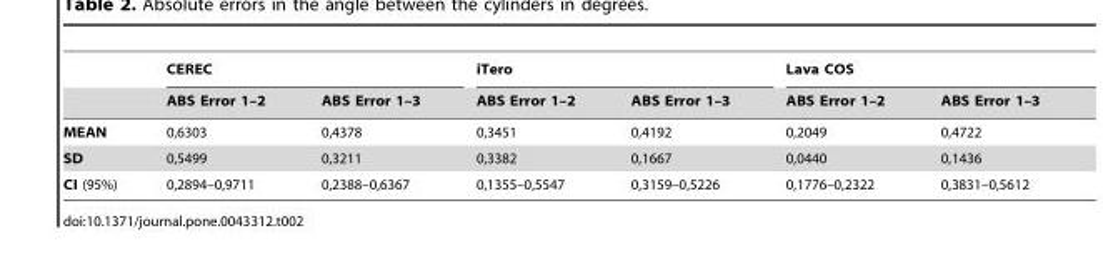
<table><thead><tr><td rowspan="2"></td><td colspan="2">CEREC</td><td colspan="2">iTero</td><td colspan="2">Lava COS</td></tr><tr><td>ABS Error 1–2</td><td>ABS Error 1–3</td><td>ABS Error 1–2</td><td>ABS Error 1–3</td><td>ABS Error 1–2</td><td>ABS Error 1–3</td></tr></thead><tbody><tr><td>MEAN</td><td>0,6303</td><td>0,4378</td><td>0,3451</td><td>0,4192</td><td>0,2049</td><td>0,4722</td></tr><tr><td>SD</td><td>0,5499</td><td>0,3211</td><td>0,3382</td><td>0,1667</td><td>0,0440</td><td>0,1436</td></tr><tr><td>CI (95%)</td><td>0,2894–0,9711</td><td>0,2388–0,6367</td><td>0,1355–0,5547</td><td>0,3159–0,5226</td><td>0,1776–0,2322</td><td>0,3831–0,5612</td></tr></tbody></table>